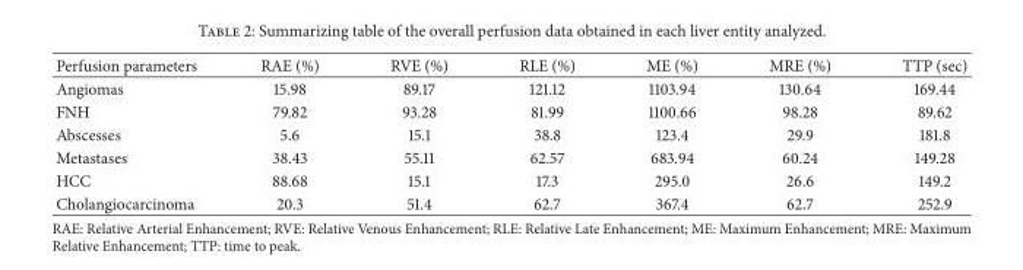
<table><thead><tr><td>Perfusion parameters</td><td>RAE (%)</td><td>RVE (%)</td><td>RLE (%)</td><td>ME (%)</td><td>MRE (%)</td><td>TTP (sec)</td></tr></thead><tbody><tr><td>Angiomas</td><td>15.98</td><td>89.17</td><td>121.12</td><td>1103.94</td><td>130.64</td><td>169.44</td></tr><tr><td>FNH</td><td>79.82</td><td>93.28</td><td>81.99</td><td>1100.66</td><td>98.28</td><td>89.62</td></tr><tr><td>Abscesses</td><td>5.6</td><td>15.1</td><td>38.8</td><td>123.4</td><td>29.9</td><td>181.8</td></tr><tr><td>Metastases</td><td>38.43</td><td>55.11</td><td>62.57</td><td>683.94</td><td>60.24</td><td>149.28</td></tr><tr><td>HCC</td><td>88.68</td><td>15.1</td><td>17.3</td><td>295.0</td><td>26.6</td><td>149.2</td></tr><tr><td>Cholangiocarcinoma</td><td>20.3</td><td>51.4</td><td>62.7</td><td>367.4</td><td>62.7</td><td>252.9</td></tr></tbody></table>